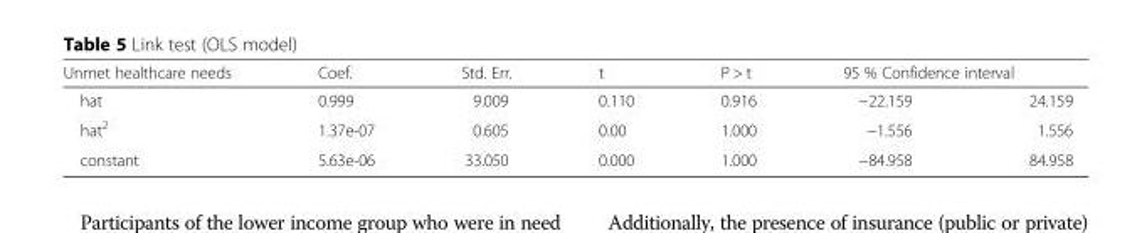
<table><thead><tr><td rowspan="2">Unmet healthcare needs hat</td><td rowspan="2">Coef. 0.999</td><td rowspan="2">Std. Err. 9.009</td><td rowspan="2">t 0.110</td><td rowspan="2">P &gt; t 0.916</td><td colspan="2">95 % Confidence interval</td></tr><tr><td>−22.159</td><td>24.159</td></tr></thead><tbody><tr><td>hat<sup>2</sup></td><td>1.37e-07</td><td>0.605</td><td>0.00</td><td>1.000</td><td>−1.556</td><td>1.556</td></tr><tr><td>constant</td><td>5.63e-06</td><td>33.050</td><td>0.000</td><td>1.000</td><td>−84.958</td><td>84.958</td></tr></tbody></table>